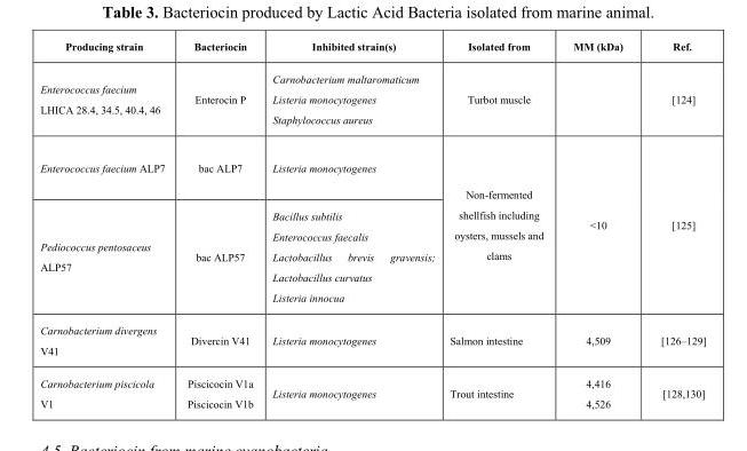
<table><thead><tr><td>Producing strain</td><td>Bacteriocin</td><td>Inhibited strain(s)</td><td>Isolated from</td><td>MM (kDa)</td><td>Ref.</td></tr></thead><tbody><tr><td>Enterococcus faecium LHICA 28.4, 34.5, 40.4, 46</td><td>Enterocin P</td><td>Carnobacterium maltaromaticum Listeria monocytogenes Staphylococcus aureus</td><td>Turbot muscle</td><td></td><td>[124]</td></tr><tr><td>Enterococcus faecium ALP7</td><td>bac ALP7</td><td>Listeria monocytogenes</td><td rowspan="2">Non-fermented shellfish including oysters, mussels and clams</td><td rowspan="2">&lt;10</td><td rowspan="2">[125]</td></tr><tr><td>Pediococcus pentosaceus ALP57</td><td>bac ALP57</td><td>Bacillus subtilis Enterococcus faecalis Lactobacillus brevis gravensis; Lactobacillus curvatus Listeria innocua</td></tr><tr><td>Carnobacterium divergens V41</td><td>Divercin V41</td><td>Listeria monocytogenes</td><td>Salmon intestine</td><td>4,509</td><td>[126–129]</td></tr><tr><td>Carnobacterium piscicola V1</td><td>Piscicocin V1a Piscicocin V1b</td><td>Listeria monocytogenes</td><td>Trout intestine</td><td>4,416 4,526</td><td>[128,130]</td></tr></tbody></table>